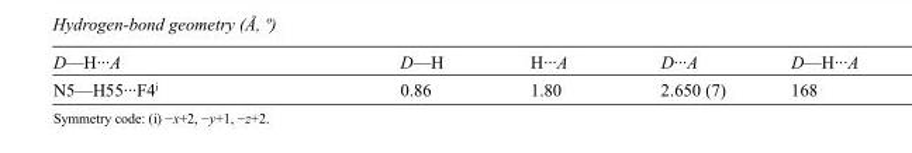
<table><tbody><tr><td>D—H···A</td><td>D—H</td><td>H···A</td><td>D···A</td><td>D—H···A</td></tr><tr><td>N5—H55···F4<sup>i</sup></td><td>0.86</td><td>1.80</td><td>2.650 (7)</td><td>168</td></tr></tbody></table>